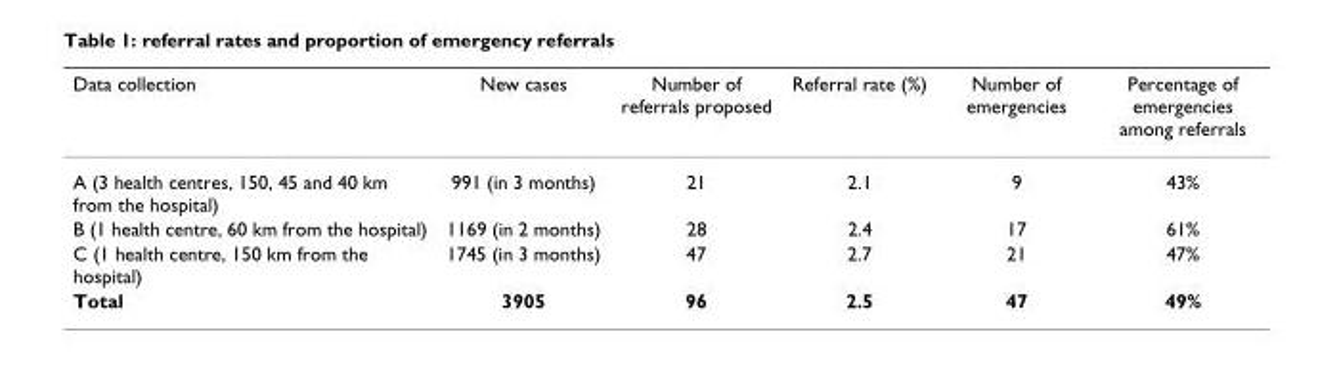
<table><thead><tr><td>Data collection</td><td>New cases</td><td>Number of referrals proposed</td><td>Referral rate (%)</td><td>Number of emergencies</td><td>Percentage of emergencies among referrals</td></tr></thead><tbody><tr><td>A (3 health centres, 150, 45 and 40 km from the hospital)</td><td>991 (in 3 months)</td><td>21</td><td>2.1</td><td>9</td><td>43%</td></tr><tr><td>B (1 health centre, 60 km from the hospital)</td><td>1169 (in 2 months)</td><td>28</td><td>2.4</td><td>17</td><td>61%</td></tr><tr><td>C (1 health centre, 150 km from the hospital)</td><td>1745 (in 3 months)</td><td>47</td><td>2.7</td><td>21</td><td>47%</td></tr><tr><td>Total</td><td>3905</td><td>96</td><td>2.5</td><td>47</td><td>49%</td></tr></tbody></table>